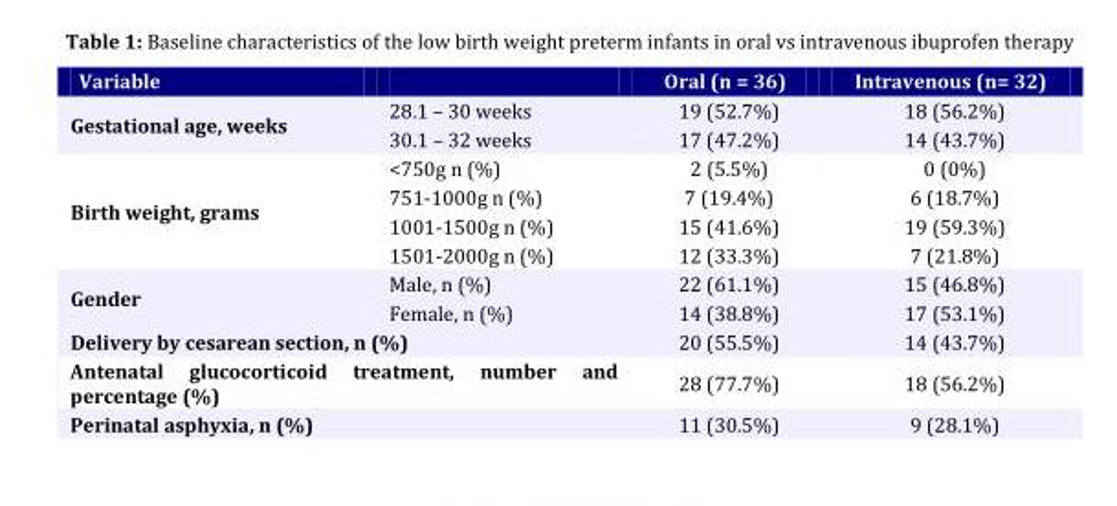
<table><thead><tr><td>Variable</td><td></td><td>Oral (n = 36)</td><td>Intravenous (n= 32)</td></tr></thead><tbody><tr><td rowspan="2">Gestational age, weeks</td><td>28.1 – 30 weeks</td><td>19 (52.7%)</td><td>18 (56.2%)</td></tr><tr><td>30.1 – 32 weeks</td><td>17 (47.2%)</td><td>14 (43.7%)</td></tr><tr><td rowspan="4">Birth weight, grams</td><td>&lt;750g n (%)</td><td>2 (5.5%)</td><td>0 (0%)</td></tr><tr><td>751-1000g n (%)</td><td>7 (19.4%)</td><td>6 (18.7%)</td></tr><tr><td>1001-1500g n (%)</td><td>15 (41.6%)</td><td>19 (59.3%)</td></tr><tr><td>1501-2000g n (%)</td><td>12 (33.3%)</td><td>7 (21.8%)</td></tr><tr><td rowspan="2">Gender</td><td>Male, n (%)</td><td>22 (61.1%)</td><td>15 (46.8%)</td></tr><tr><td>Female, n (%)</td><td>14 (38.8%)</td><td>17 (53.1%)</td></tr><tr><td colspan="2">Delivery by cesarean section, n (%)</td><td>20 (55.5%)</td><td>14 (43.7%)</td></tr><tr><td colspan="2">Antenatal glucocorticoid treatment, number and percentage (%)</td><td>28 (77.7%)</td><td>18 (56.2%)</td></tr><tr><td colspan="2">Perinatal asphyxia, n (%)</td><td>11 (30.5%)</td><td>9 (28.1%)</td></tr></tbody></table>